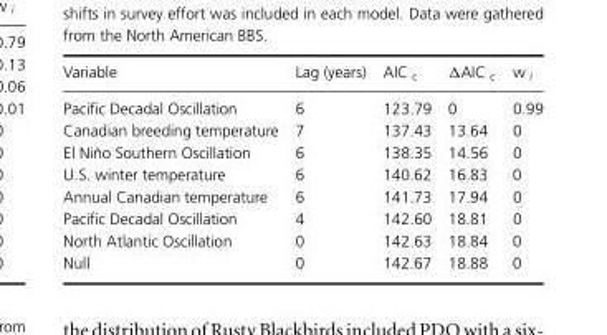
<table><thead><tr><td>Variable</td><td>Lag (years)</td><td>AIC <sub>c</sub></td><td>ΔAIC <sub>c</sub></td><td>w <sub>i</sub></td></tr></thead><tbody><tr><td>Pacific Decadal Oscillation</td><td>6</td><td>123.79</td><td>0</td><td>0.99</td></tr><tr><td>Canadian breeding temperature</td><td>7</td><td>137.43</td><td>13.64</td><td>0</td></tr><tr><td>El Ni ˜no Southern Oscillation</td><td>6</td><td>138.35</td><td>14.56</td><td>0</td></tr><tr><td>U.S. winter temperature</td><td>6</td><td>140.62</td><td>16.83</td><td>0</td></tr><tr><td>Annual Canadian temperature</td><td>6</td><td>141.73</td><td>17.94</td><td>0</td></tr><tr><td>Pacific Decadal Oscillation</td><td>4</td><td>142.60</td><td>18.81</td><td>0</td></tr><tr><td>North Atlantic Oscillation</td><td>0</td><td>142.63</td><td>18.84</td><td>0</td></tr><tr><td>Null</td><td>0</td><td>142.67</td><td>18.88</td><td>0</td></tr></tbody></table>